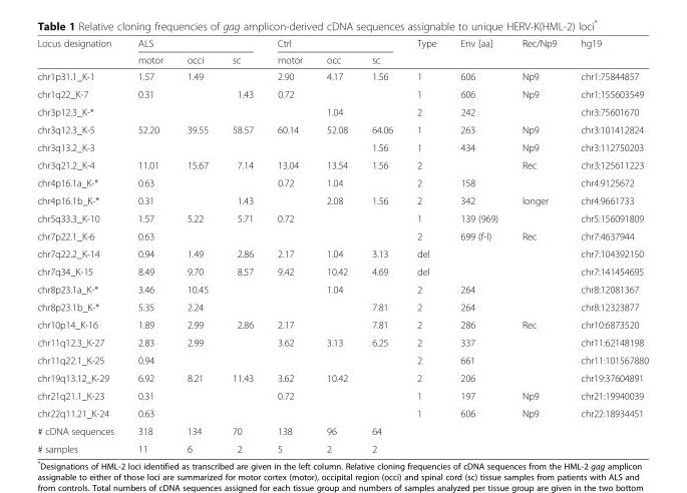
<table><thead><tr><td rowspan="2">Locus designation</td><td colspan="3">ALS</td><td colspan="3">Ctrl</td><td rowspan="2">Type</td><td rowspan="2">Env [aa]</td><td rowspan="2">Rec/Np9</td><td rowspan="2">hg19</td></tr><tr><td>motor</td><td>occi</td><td>sc</td><td>motor</td><td>occ</td><td>sc</td></tr></thead><tbody><tr><td>chr1p31.1_K-1</td><td>1.57</td><td>1.49</td><td></td><td>2.90</td><td>4.17</td><td>1.56</td><td>1</td><td>606</td><td>Np9</td><td>chr1:75844857</td></tr><tr><td>chr1q22_K-7</td><td>0.31</td><td></td><td>1.43</td><td>0.72</td><td></td><td></td><td>1</td><td>606</td><td>Np9</td><td>chr1:155603549</td></tr><tr><td>chr3p12.3_K-*</td><td></td><td></td><td></td><td></td><td>1.04</td><td></td><td>2</td><td>242</td><td></td><td>chr3:75601670</td></tr><tr><td>chr3q12.3_K-5</td><td>52.20</td><td>39.55</td><td>58.57</td><td>60.14</td><td>52.08</td><td>64.06</td><td>1</td><td>263</td><td>Np9</td><td>chr3:101412824</td></tr><tr><td>chr3q13.2_K-3</td><td></td><td></td><td></td><td></td><td></td><td>1.56</td><td>1</td><td>434</td><td>Np9</td><td>chr3:112750203</td></tr><tr><td>chr3q21.2_K-4</td><td>11.01</td><td>15.67</td><td>7.14</td><td>13.04</td><td>13.54</td><td>1.56</td><td>2</td><td></td><td>Rec</td><td>chr3:125611223</td></tr><tr><td>chr4p16.1a_K-*</td><td>0.63</td><td></td><td></td><td>0.72</td><td>1.04</td><td></td><td>2</td><td>158</td><td></td><td>chr4:9125672</td></tr><tr><td>chr4p16.1b_K-*</td><td>0.31</td><td></td><td>1.43</td><td></td><td>2.08</td><td>1.56</td><td>2</td><td>342</td><td>longer</td><td>chr4:9661733</td></tr><tr><td>chr5q33.3_K-10</td><td>1.57</td><td>5.22</td><td>5.71</td><td>0.72</td><td></td><td></td><td>1</td><td>139 (969)</td><td></td><td>chr5:156091809</td></tr><tr><td>chr7p22.1_K-6</td><td>0.63</td><td></td><td></td><td></td><td></td><td></td><td>2</td><td>699 (f-l)</td><td>Rec</td><td>chr7:4637944</td></tr><tr><td>chr7q22.2_K-14</td><td>0.94</td><td>1.49</td><td>2.86</td><td>2.17</td><td>1.04</td><td>3.13</td><td>del</td><td></td><td></td><td>chr7:104392150</td></tr><tr><td>chr7q34_K-15</td><td>8.49</td><td>9.70</td><td>8.57</td><td>9.42</td><td>10.42</td><td>4.69</td><td>del</td><td></td><td></td><td>chr7:141454695</td></tr><tr><td>chr8p23.1a_K-*</td><td>3.46</td><td>10.45</td><td></td><td></td><td>1.04</td><td></td><td>2</td><td>264</td><td></td><td>chr8:12081367</td></tr><tr><td>chr8p23.1b_K-*</td><td>5.35</td><td>2.24</td><td></td><td></td><td></td><td>7.81</td><td>2</td><td>264</td><td></td><td>chr8:12323877</td></tr><tr><td>chr10p14_K-16</td><td>1.89</td><td>2.99</td><td>2.86</td><td>2.17</td><td></td><td>7.81</td><td>2</td><td>286</td><td>Rec</td><td>chr10:6873520</td></tr><tr><td>chr11q12.3_K-27</td><td>2.83</td><td>2.99</td><td></td><td>3.62</td><td>3.13</td><td>6.25</td><td>2</td><td>337</td><td></td><td>chr11:62148198</td></tr><tr><td>chr11q22.1_K-25</td><td>0.94</td><td></td><td></td><td></td><td></td><td></td><td>2</td><td>661</td><td></td><td>chr11:101567880</td></tr><tr><td>chr19q13.12_K-29</td><td>6.92</td><td>8.21</td><td>11.43</td><td>3.62</td><td>10.42</td><td></td><td>2</td><td>206</td><td></td><td>chr19:37604891</td></tr><tr><td>chr21q21.1_K-23</td><td>0.31</td><td></td><td></td><td>0.72</td><td></td><td></td><td>1</td><td>197</td><td>Np9</td><td>chr21:19940039</td></tr><tr><td>chr22q11.21_K-24</td><td>0.63</td><td></td><td></td><td></td><td></td><td></td><td>1</td><td>606</td><td>Np9</td><td>chr22:18934451</td></tr><tr><td># cDNA sequences</td><td>318</td><td>134</td><td>70</td><td>138</td><td>96</td><td>64</td><td></td><td></td><td></td><td></td></tr><tr><td># samples</td><td>11</td><td>6</td><td>2</td><td>5</td><td>2</td><td>2</td><td></td><td></td><td></td><td></td></tr></tbody></table>